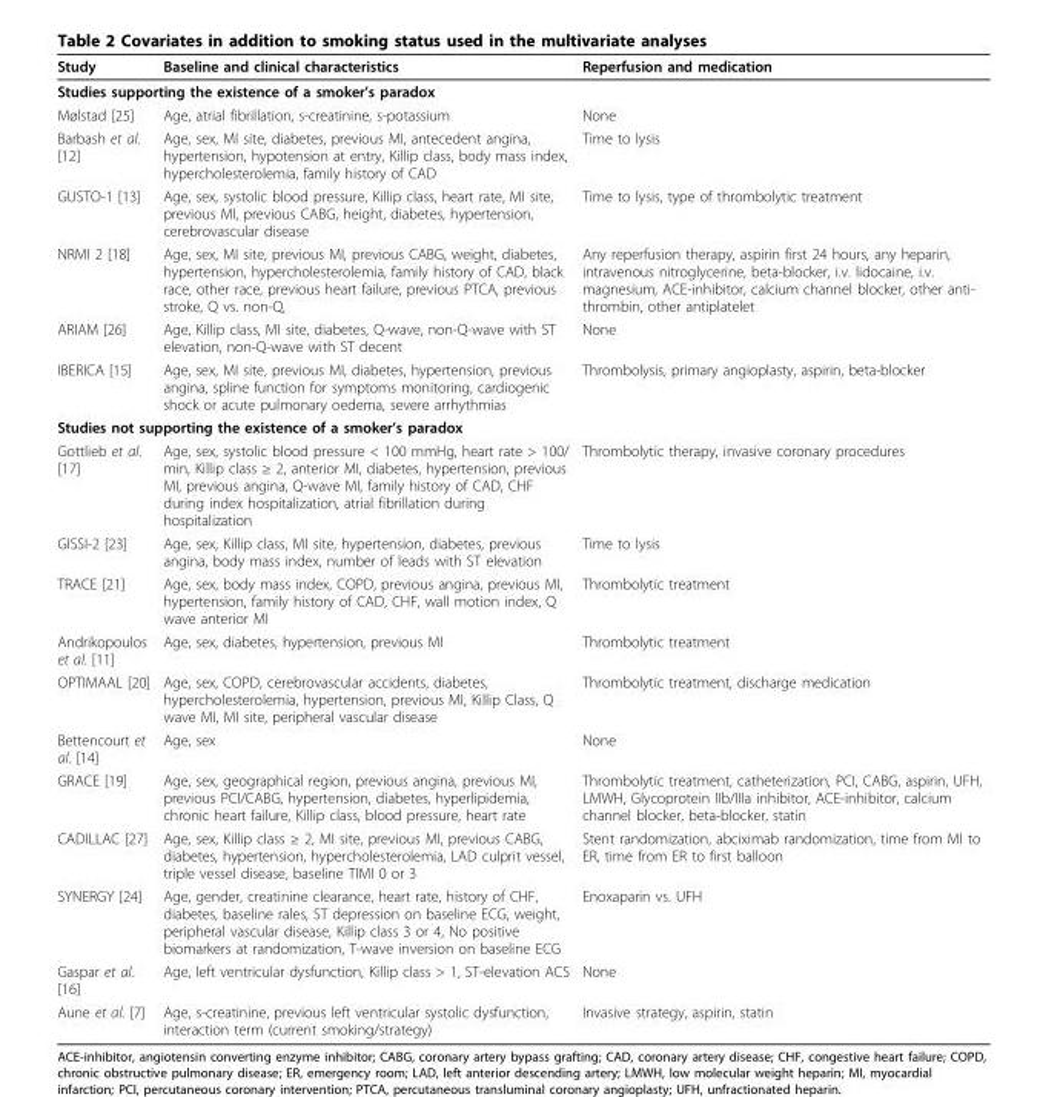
<table><thead><tr><td>Study</td><td>Baseline and clinical characteristics</td><td>Reperfusion and medication</td></tr></thead><tbody><tr><td colspan="3">Studies supporting the existence of a smoker’s paradox</td></tr><tr><td>Mølstad [25]</td><td>Age, atrial fibrillation, s-creatinine, s-potassium</td><td>None</td></tr><tr><td>Barbash et al. [12]</td><td>Age, sex, MI site, diabetes, previous MI, antecedent angina, hypertension, hypotension at entry, Killip class, body mass index, hypercholesterolemia, family history of CAD</td><td>Time to lysis</td></tr><tr><td>GUSTO-1 [13]</td><td>Age, sex, systolic blood pressure, Killip class, heart rate, MI site, previous MI, previous CABG, height, diabetes, hypertension, cerebrovascular disease</td><td>Time to lysis, type of thrombolytic treatment</td></tr><tr><td>NRMI 2 [18]</td><td>Age, sex, MI site, previous MI, previous CABG, weight, diabetes, hypertension, hypercholesterolemia, family history of CAD, black race, other race, previous heart failure, previous PTCA, previous stroke, Q vs. non-Q,</td><td>Any reperfusion therapy, aspirin first 24 hours, any heparin, intravenous nitroglycerine, beta-blocker, i.v. lidocaine, i.v. magnesium, ACE-inhibitor, calcium channel blocker, other anti- thrombin, other antiplatelet</td></tr><tr><td>ARIAM [26]</td><td>Age, Killip class, MI site, diabetes, Q-wave, non-Q-wave with ST elevation, non-Q-wave with ST decent</td><td>None</td></tr><tr><td>IBERICA [15]</td><td>Age, sex, MI site, previous MI, diabetes, hypertension, previous angina, spline function for symptoms monitoring, cardiogenic shock or acute pulmonary oedema, severe arrhythmias</td><td>Thrombolysis, primary angioplasty, aspirin, beta-blocker</td></tr><tr><td colspan="3">Studies not supporting the existence of a smoker’s paradox</td></tr><tr><td>Gottlieb et al. [17]</td><td>Age, sex, systolic blood pressure &lt; 100 mmHg, heart rate &gt; 100/ min, Killip class ≥ 2, anterior MI, diabetes, hypertension, previous MI, previous angina, Q-wave MI, family history of CAD, CHF during index hospitalization, atrial fibrillation during hospitalization</td><td>Thrombolytic therapy, invasive coronary procedures</td></tr><tr><td>GISSI-2 [23]</td><td>Age, sex, Killip class, MI site, hypertension, diabetes, previous angina, body mass index, number of leads with ST elevation</td><td>Time to lysis</td></tr><tr><td>TRACE [21]</td><td>Age, sex, body mass index, COPD, previous angina, previous MI, hypertension, family history of CAD, CHF, wall motion index, Q wave anterior MI</td><td>Thrombolytic treatment</td></tr><tr><td>Andrikopoulos et al. [11]</td><td>Age, sex, diabetes, hypertension, previous MI</td><td>Thrombolytic treatment</td></tr><tr><td>OPTIMAAL [20]</td><td>Age, sex, COPD, cerebrovascular accidents, diabetes, hypercholesterolemia, hypertension, previous MI, Killip Class, Q wave MI, MI site, peripheral vascular disease</td><td>Thrombolytic treatment, discharge medication</td></tr><tr><td>Bettencourt et al. [14]</td><td>Age, sex</td><td>None</td></tr><tr><td>GRACE [19]</td><td>Age, sex, geographical region, previous angina, previous MI, previous PCI/CABG, hypertension, diabetes, hyperlipidemia, chronic heart failure, Killip class, blood pressure, heart rate</td><td>Thrombolytic treatment, catheterization, PCI, CABG, aspirin, UFH, LMWH, Glycoprotein IIb/IIIa inhibitor, ACE-inhibitor, calcium channel blocker, beta-blocker, statin</td></tr><tr><td>CADILLAC [27]</td><td>Age, sex, Killip class ≥ 2, MI site, previous MI, previous CABG, diabetes, hypertension, hypercholesterolemia, LAD culprit vessel, triple vessel disease, baseline TIMI 0 or 3</td><td>Stent randomization, abciximab randomization, time from MI to ER, time from ER to first balloon</td></tr><tr><td>SYNERGY [24]</td><td>Age, gender, creatinine clearance, heart rate, history of CHF, diabetes, baseline rales, ST depression on baseline ECG, weight, peripheral vascular disease, Killip class 3 or 4, No positive biomarkers at randomization, T-wave inversion on baseline ECG</td><td>Enoxaparin vs. UFH</td></tr><tr><td>Gaspar et al. [16]</td><td>Age, left ventricular dysfunction, Killip class &gt; 1, ST-elevation ACS</td><td>None</td></tr><tr><td>Aune et al. [7]</td><td>Age, s-creatinine, previous left ventricular systolic dysfunction, interaction term (current smoking/strategy)</td><td>Invasive strategy, aspirin, statin</td></tr></tbody></table>